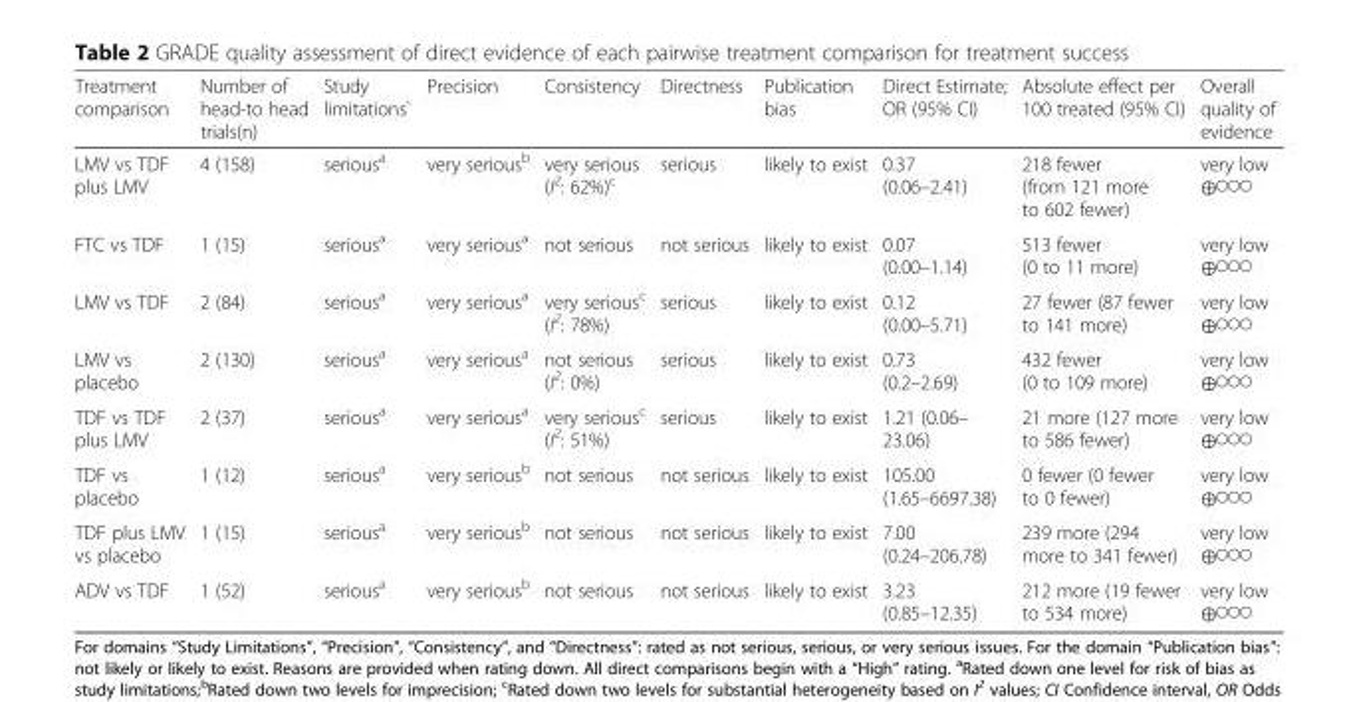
<table><thead><tr><td>Treatment comparison</td><td>Number of head-to head trials(n)</td><td>Study limitations`</td><td>Precision</td><td>Consistency</td><td>Directness</td><td>Publication bias</td><td>Direct Estimate; OR (95% CI)</td><td>Absolute effect per 100 treated (95% CI)</td><td>Overall quality of evidence</td></tr></thead><tbody><tr><td>LMV vs TDF plus LMV</td><td>4 (158)</td><td>serious<sup>a</sup></td><td>very serious<sup>b</sup></td><td>very serious (I<sup>2</sup>: 62%)<sup>c</sup></td><td>serious</td><td>likely to exist</td><td>0.37 (0.06–2.41)</td><td>218 fewer (from 121 more to 602 fewer)</td><td>very low ⊕◯◯◯</td></tr><tr><td>FTC vs TDF</td><td>1 (15)</td><td>serious<sup>a</sup></td><td>very serious<sup>a</sup></td><td>not serious</td><td>not serious</td><td>likely to exist</td><td>0.07 (0.00–1.14)</td><td>513 fewer (0 to 11 more)</td><td>very low ⊕◯◯◯</td></tr><tr><td>LMV vs TDF</td><td>2 (84)</td><td>serious<sup>a</sup></td><td>very serious<sup>a</sup></td><td>very serious<sup>c</sup> (I<sup>2</sup>: 78%)</td><td>serious</td><td>likely to exist</td><td>0.12 (0.00–5.71)</td><td>27 fewer (87 fewer to 141 more)</td><td>very low ⊕◯◯◯</td></tr><tr><td>LMV vs placebo</td><td>2 (130)</td><td>serious<sup>a</sup></td><td>very serious<sup>a</sup></td><td>not serious (I<sup>2</sup>: 0%)</td><td>serious</td><td>likely to exist</td><td>0.73 (0.2–2.69)</td><td>432 fewer (0 to 109 more)</td><td>very low ⊕◯◯◯</td></tr><tr><td>TDF vs TDF plus LMV</td><td>2 (37)</td><td>serious<sup>a</sup></td><td>very serious<sup>a</sup></td><td>very serious<sup>c</sup> (I<sup>2</sup>: 51%)</td><td>serious</td><td>likely to exist</td><td>1.21 (0.06– 23.06)</td><td>21 more (127 more to 586 fewer)</td><td>very low ⊕◯◯◯</td></tr><tr><td>TDF vs placebo</td><td>1 (12)</td><td>serious<sup>a</sup></td><td>very serious<sup>b</sup></td><td>not serious</td><td>not serious</td><td>likely to exist</td><td>105.00 (1.65–6697.38)</td><td>0 fewer (0 fewer to 0 fewer)</td><td>very low ⊕◯◯◯</td></tr><tr><td>TDF plus LMV vs placebo</td><td>1 (15)</td><td>serious<sup>a</sup></td><td>very serious<sup>b</sup></td><td>not serious</td><td>not serious</td><td>likely to exist</td><td>7.00 (0.24–206.78)</td><td>239 more (294 more to 341 fewer)</td><td>very low ⊕◯◯◯</td></tr><tr><td>ADV vs TDF</td><td>1 (52)</td><td>serious<sup>a</sup></td><td>very serious<sup>b</sup></td><td>not serious</td><td>not serious</td><td>likely to exist</td><td>3.23 (0.85–12.35)</td><td>212 more (19 fewer to 534 more)</td><td>very low ⊕◯◯◯</td></tr></tbody></table>